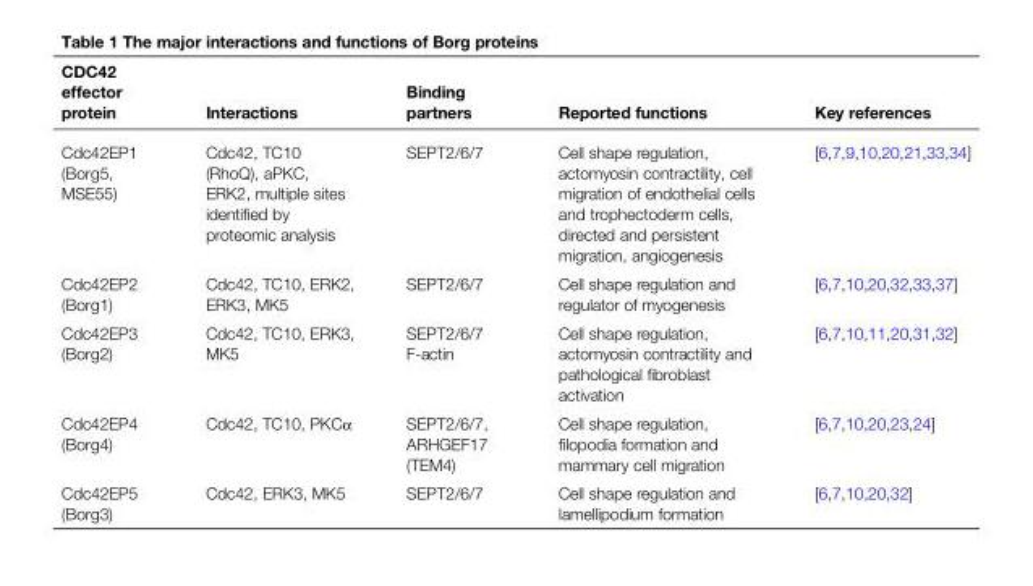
<table><thead><tr><td>CDC42 effector protein</td><td>Interactions</td><td>Binding partners</td><td>Reported functions</td><td>Key references</td></tr></thead><tbody><tr><td>Cdc42EP1 (Borg5, MSE55)</td><td>Cdc42, TC10 (RhoQ), aPKC, ERK2, multiple sites identified by proteomic analysis</td><td>SEPT2/6/7</td><td>Cell shape regulation, actomyosin contractility, cell migration of endothelial cells and trophectoderm cells, directed and persistent migration, angiogenesis</td><td>[6,7,9,10,20,21,33,34]</td></tr><tr><td>Cdc42EP2 (Borg1)</td><td>Cdc42, TC10, ERK2, ERK3, MK5</td><td>SEPT2/6/7</td><td>Cell shape regulation and regulator of myogenesis</td><td>[6,7,10,20,32,33,37]</td></tr><tr><td>Cdc42EP3 (Borg2)</td><td>Cdc42, TC10, ERK3, MK5</td><td>SEPT2/6/7 F-actin</td><td>Cell shape regulation, actomyosin contractility and pathological fibroblast activation</td><td>[6,7,10,11,20,31,32]</td></tr><tr><td>Cdc42EP4 (Borg4)</td><td>Cdc42, TC10, PKCα</td><td>SEPT2/6/7, ARHGEF17 (TEM4)</td><td>Cell shape regulation, filopodia formation and mammary cell migration</td><td>[6,7,10,20,23,24]</td></tr><tr><td>Cdc42EP5 (Borg3)</td><td>Cdc42, ERK3, MK5</td><td>SEPT2/6/7</td><td>Cell shape regulation and lamellipodium formation</td><td>[6,7,10,20,32]</td></tr></tbody></table>